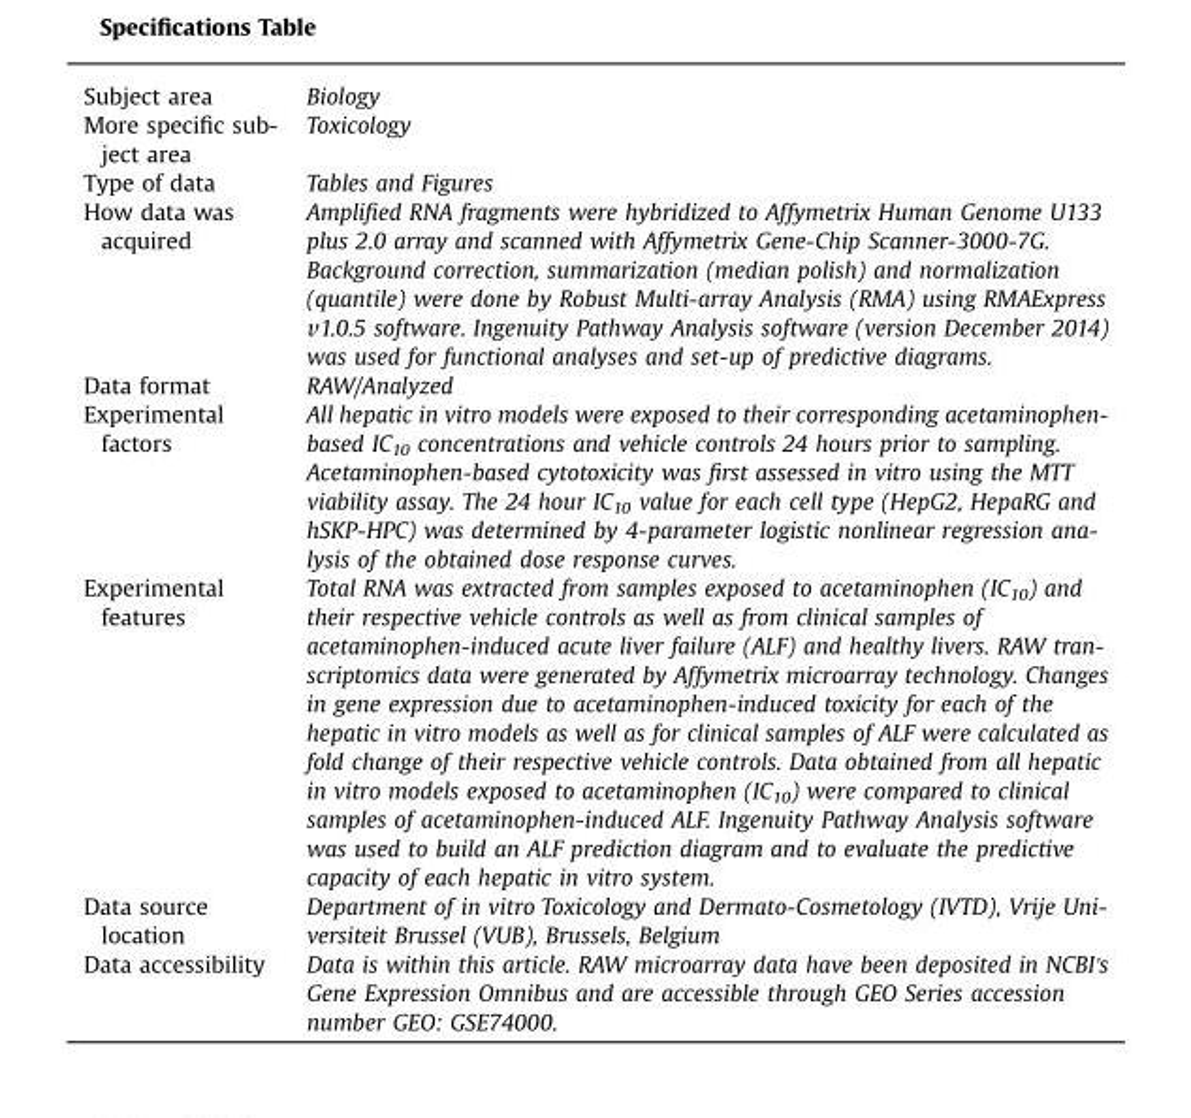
<table><tbody><tr><td>Subject area</td><td>Biology</td></tr><tr><td>More specific sub- ject area</td><td>Toxicology</td></tr><tr><td>Type of data</td><td>Tables and Figures</td></tr><tr><td>How data was acquired</td><td>Amplified RNA fragments were hybridized to Affymetrix Human Genome U133 plus 2.0 array and scanned with Affymetrix Gene-Chip Scanner-3000-7G. Background correction, summarization (median polish) and normalization (quantile) were done by Robust Multi-array Analysis (RMA) using RMAExpress v1.0.5 software. Ingenuity Pathway Analysis software (version December 2014) was used for functional analyses and set-up of predictive diagrams.</td></tr><tr><td>Data format</td><td>RAW/Analyzed</td></tr><tr><td>Experimental factors</td><td>All hepatic in vitro models were exposed to their corresponding acetaminophen- based IC10 concentrations and vehicle controls 24 hours prior to sampling. Acetaminophen-based cytotoxicity was first assessed in vitro using the MTT viability assay. The 24 hour IC10 value for each cell type (HepG2, HepaRG and hSKP-HPC) was determined by 4-parameter logistic nonlinear regression ana- lysis of the obtained dose response curves.</td></tr><tr><td>Experimental features</td><td>Total RNA was extracted from samples exposed to acetaminophen (IC10) and their respective vehicle controls as well as from clinical samples of acetaminophen-induced acute liver failure (ALF) and healthy livers. RAW tran- scriptomics data were generated by Affymetrix microarray technology. Changes in gene expression due to acetaminophen-induced toxicity for each of the hepatic in vitro models as well as for clinical samples of ALF were calculated as fold change of their respective vehicle controls. Data obtained from all hepatic in vitro models exposed to acetaminophen (IC10) were compared to clinical samples of acetaminophen-induced ALF. Ingenuity Pathway Analysis software was used to build an ALF prediction diagram and to evaluate the predictive capacity of each hepatic in vitro system.</td></tr><tr><td>Data source location</td><td>Department of in vitro Toxicology and Dermato-Cosmetology (IVTD), Vrije Uni- versiteit Brussel (VUB), Brussels, Belgium</td></tr><tr><td>Data accessibility</td><td>Data is within this article. RAW microarray data have been deposited in NCBI&#x27;s Gene Expression Omnibus and are accessible through GEO Series accession number GEO: GSE74000.</td></tr></tbody></table>